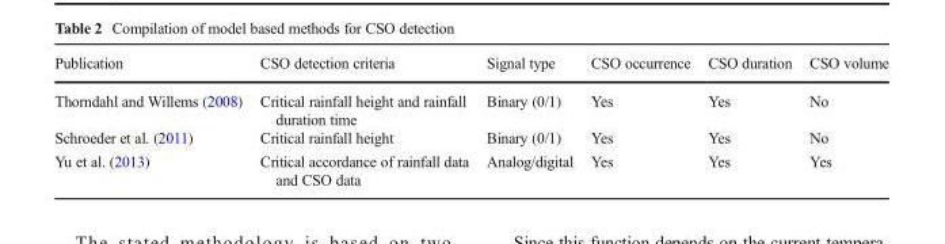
<table><thead><tr><td>Publication</td><td>CSO detection criteria</td><td>Signal type</td><td>CSO occurrence</td><td>CSO duration</td><td>CSO volume</td></tr></thead><tbody><tr><td>Thorndahl and Willems (2008)</td><td>Critical rainfall height and rainfall duration time</td><td>Binary (0/1)</td><td>Yes</td><td>Yes</td><td>No</td></tr><tr><td>Schroeder et al. (2011)</td><td>Critical rainfall height</td><td>Binary (0/1)</td><td>Yes</td><td>Yes</td><td>No</td></tr><tr><td>Yu et al. (2013)</td><td>Critical accordance of rainfall data and CSO data</td><td>Analog/digital</td><td>Yes</td><td>Yes</td><td>Yes</td></tr></tbody></table>